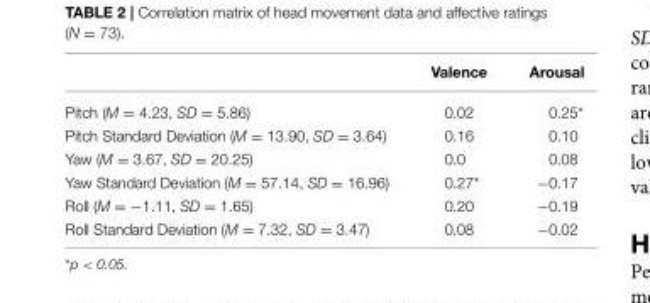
<table><thead><tr><td></td><td>Valence</td><td>Arousal</td></tr></thead><tbody><tr><td>Pitch (M = 4.23, SD = 5.86)</td><td>0.02</td><td>0.25*</td></tr><tr><td>Pitch Standard Deviation (M = 13.90, SD = 3.64)</td><td>0.16</td><td>0.10</td></tr><tr><td>Yaw (M = 3.67, SD = 20.25)</td><td>0.0</td><td>0.08</td></tr><tr><td>Yaw Standard Deviation (M = 57.14, SD = 16.96)</td><td>0.27*</td><td>−0.17</td></tr><tr><td>Roll (M = −1.11, SD = 1.65)</td><td>0.20</td><td>−0.19</td></tr><tr><td>Roll Standard Deviation (M = 7.32, SD = 3.47)</td><td>0.08</td><td>−0.02</td></tr></tbody></table>